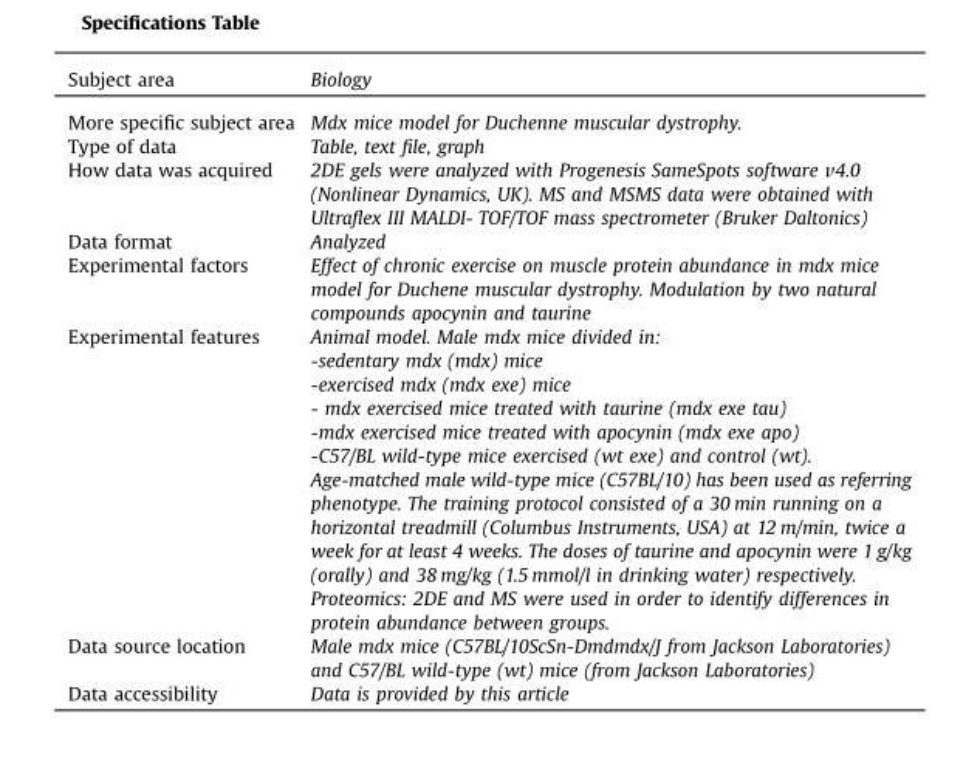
<table><thead><tr><td>Subject area</td><td>Biology</td></tr></thead><tbody><tr><td>More specific subject area</td><td>Mdx mice model for Duchenne muscular dystrophy.</td></tr><tr><td>Type of data</td><td>Table, text file, graph</td></tr><tr><td>How data was acquired</td><td>2DE gels were analyzed with Progenesis SameSpots software v4.0 (Nonlinear Dynamics, UK). MS and MSMS data were obtained with Ultraflex III MALDI- TOF/TOF mass spectrometer (Bruker Daltonics)</td></tr><tr><td>Data format</td><td>Analyzed</td></tr><tr><td>Experimental factors</td><td>Effect of chronic exercise on muscle protein abundance in mdx mice model for Duchene muscular dystrophy. Modulation by two natural compounds apocynin and taurine</td></tr><tr><td rowspan="8">Experimental features</td><td>Animal model. Male mdx mice divided in:</td></tr><tr><td>-sedentary mdx (mdx) mice</td></tr><tr><td>-exercised mdx (mdx exe) mice</td></tr><tr><td>- mdx exercised mice treated with taurine (mdx exe tau)</td></tr><tr><td>-mdx exercised mice treated with apocynin (mdx exe apo)</td></tr><tr><td>-C57/BL wild-type mice exercised (wt exe) and control (wt).</td></tr><tr><td>Age-matched male wild-type mice (C57BL/10) has been used as referring phenotype. The training protocol consisted of a 30 min running on a horizontal treadmill (Columbus Instruments, USA) at 12 m/min, twice a week for at least 4 weeks. The doses of taurine and apocynin were 1 g/kg (orally) and 38 mg/kg (1.5 mmol/l in drinking water) respectively.</td></tr><tr><td>Proteomics: 2DE and MS were used in order to identify differences in protein abundance between groups.</td></tr><tr><td>Data source location</td><td>Male mdx mice (C57BL/10ScSn-Dmdmdx/J from Jackson Laboratories) and C57/BL wild-type (wt) mice (from Jackson Laboratories)</td></tr><tr><td>Data accessibility</td><td>Data is provided by this article</td></tr></tbody></table>